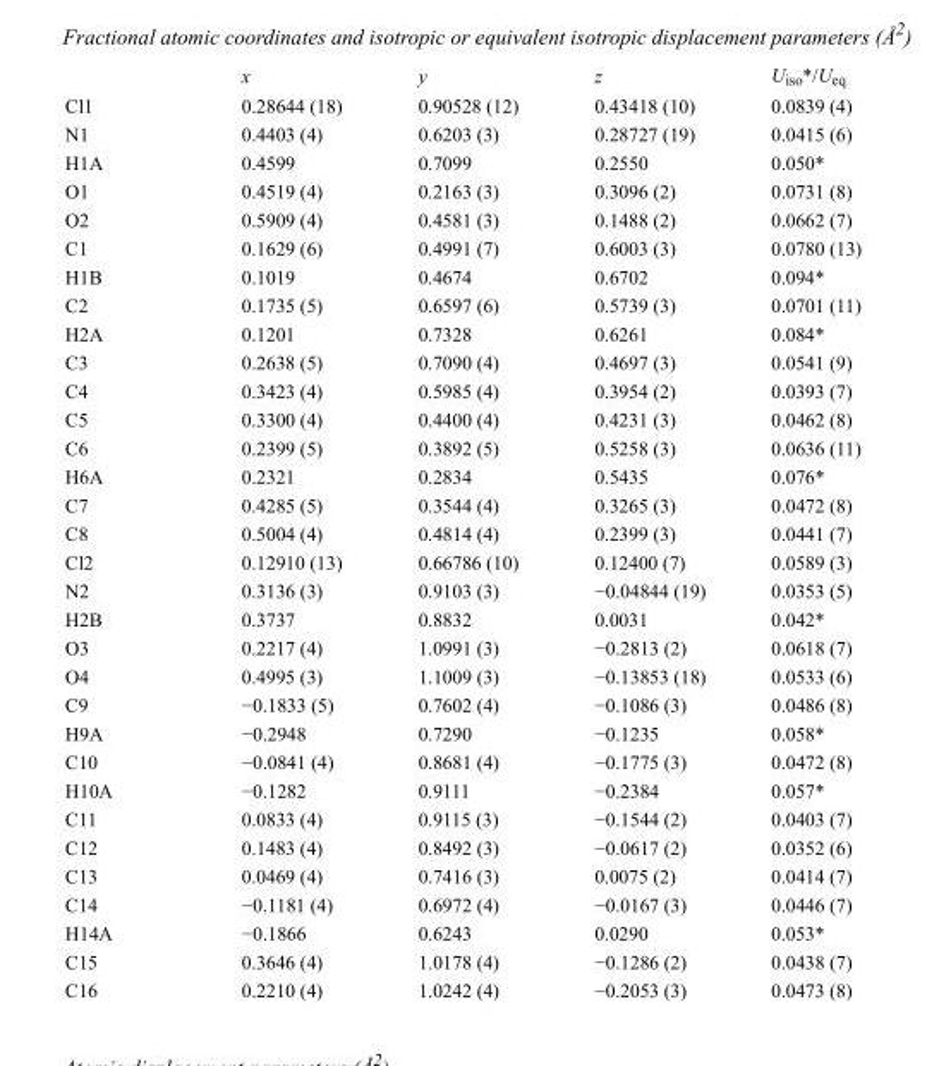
<table><thead><tr><td></td><td>x</td><td>y</td><td>z</td><td>U<sub>iso</sub>*/U<sub>eq</sub></td></tr></thead><tbody><tr><td>Cl1</td><td>0.28644 (18)</td><td>0.90528 (12)</td><td>0.43418 (10)</td><td>0.0839 (4)</td></tr><tr><td>N1</td><td>0.4403 (4)</td><td>0.6203 (3)</td><td>0.28727 (19)</td><td>0.0415 (6)</td></tr><tr><td>H1A</td><td>0.4599</td><td>0.7099</td><td>0.2550</td><td>0.050*</td></tr><tr><td>O1</td><td>0.4519 (4)</td><td>0.2163 (3)</td><td>0.3096 (2)</td><td>0.0731 (8)</td></tr><tr><td>O2</td><td>0.5909 (4)</td><td>0.4581 (3)</td><td>0.1488 (2)</td><td>0.0662 (7)</td></tr><tr><td>C1</td><td>0.1629 (6)</td><td>0.4991 (7)</td><td>0.6003 (3)</td><td>0.0780 (13)</td></tr><tr><td>H1B</td><td>0.1019</td><td>0.4674</td><td>0.6702</td><td>0.094*</td></tr><tr><td>C2</td><td>0.1735 (5)</td><td>0.6597 (6)</td><td>0.5739 (3)</td><td>0.0701 (11)</td></tr><tr><td>H2A</td><td>0.1201</td><td>0.7328</td><td>0.6261</td><td>0.084*</td></tr><tr><td>C3</td><td>0.2638 (5)</td><td>0.7090 (4)</td><td>0.4697 (3)</td><td>0.0541 (9)</td></tr><tr><td>C4</td><td>0.3423 (4)</td><td>0.5985 (4)</td><td>0.3954 (2)</td><td>0.0393 (7)</td></tr><tr><td>C5</td><td>0.3300 (4)</td><td>0.4400 (4)</td><td>0.4231 (3)</td><td>0.0462 (8)</td></tr><tr><td>C6</td><td>0.2399 (5)</td><td>0.3892 (5)</td><td>0.5258 (3)</td><td>0.0636 (11)</td></tr><tr><td>H6A</td><td>0.2321</td><td>0.2834</td><td>0.5435</td><td>0.076*</td></tr><tr><td>C7</td><td>0.4285 (5)</td><td>0.3544 (4)</td><td>0.3265 (3)</td><td>0.0472 (8)</td></tr><tr><td>C8</td><td>0.5004 (4)</td><td>0.4814 (4)</td><td>0.2399 (3)</td><td>0.0441 (7)</td></tr><tr><td>Cl2</td><td>0.12910 (13)</td><td>0.66786 (10)</td><td>0.12400 (7)</td><td>0.0589 (3)</td></tr><tr><td>N2</td><td>0.3136 (3)</td><td>0.9103 (3)</td><td>−0.04844 (19)</td><td>0.0353 (5)</td></tr><tr><td>H2B</td><td>0.3737</td><td>0.8832</td><td>0.0031</td><td>0.042*</td></tr><tr><td>O3</td><td>0.2217 (4)</td><td>1.0991 (3)</td><td>−0.2813 (2)</td><td>0.0618 (7)</td></tr><tr><td>O4</td><td>0.4995 (3)</td><td>1.1009 (3)</td><td>−0.13853 (18)</td><td>0.0533 (6)</td></tr><tr><td>C9</td><td>−0.1833 (5)</td><td>0.7602 (4)</td><td>−0.1086 (3)</td><td>0.0486 (8)</td></tr><tr><td>H9A</td><td>−0.2948</td><td>0.7290</td><td>−0.1235</td><td>0.058*</td></tr><tr><td>C10</td><td>−0.0841 (4)</td><td>0.8681 (4)</td><td>−0.1775 (3)</td><td>0.0472 (8)</td></tr><tr><td>H10A</td><td>−0.1282</td><td>0.9111</td><td>−0.2384</td><td>0.057*</td></tr><tr><td>C11</td><td>0.0833 (4)</td><td>0.9115 (3)</td><td>−0.1544 (2)</td><td>0.0403 (7)</td></tr><tr><td>C12</td><td>0.1483 (4)</td><td>0.8492 (3)</td><td>−0.0617 (2)</td><td>0.0352 (6)</td></tr><tr><td>C13</td><td>0.0469 (4)</td><td>0.7416 (3)</td><td>0.0075 (2)</td><td>0.0414 (7)</td></tr><tr><td>C14</td><td>−0.1181 (4)</td><td>0.6972 (4)</td><td>−0.0167 (3)</td><td>0.0446 (7)</td></tr><tr><td>H14A</td><td>−0.1866</td><td>0.6243</td><td>0.0290</td><td>0.053*</td></tr><tr><td>C15</td><td>0.3646 (4)</td><td>1.0178 (4)</td><td>−0.1286 (2)</td><td>0.0438 (7)</td></tr><tr><td>C16</td><td>0.2210 (4)</td><td>1.0242 (4)</td><td>−0.2053 (3)</td><td>0.0473 (8)</td></tr></tbody></table>